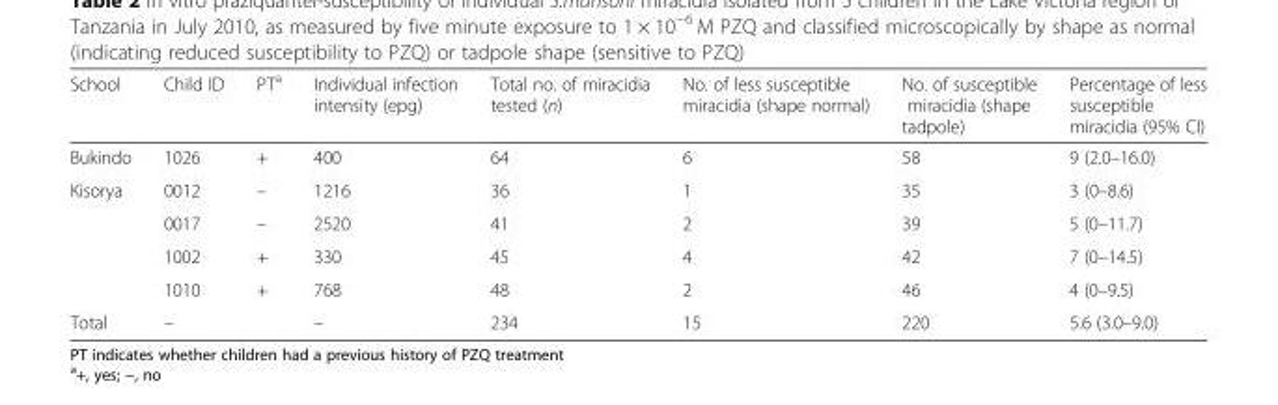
<table><thead><tr><td>School</td><td>Child ID</td><td>PT<sup>a</sup></td><td>Individual infection intensity (epg)</td><td>Total no. of miracidia tested (n)</td><td>No. of less susceptible miracidia (shape normal)</td><td>No. of susceptible miracidia (shape tadpole)</td><td>Percentage of less susceptible miracidia (95% CI)</td></tr></thead><tbody><tr><td>Bukindo</td><td>1026</td><td>+</td><td>400</td><td>64</td><td>6</td><td>58</td><td>9 (2.0–16.0)</td></tr><tr><td rowspan="4">Kisorya</td><td>0012</td><td>–</td><td>1216</td><td>36</td><td>1</td><td>35</td><td>3 (0–8.6)</td></tr><tr><td>0017</td><td>–</td><td>2520</td><td>41</td><td>2</td><td>39</td><td>5 (0–11.7)</td></tr><tr><td>1002</td><td>+</td><td>330</td><td>45</td><td>4</td><td>42</td><td>7 (0–14.5)</td></tr><tr><td>1010</td><td>+</td><td>768</td><td>48</td><td>2</td><td>46</td><td>4 (0–9.5)</td></tr><tr><td>Total</td><td>–</td><td></td><td>–</td><td>234</td><td>15</td><td>220</td><td>5.6 (3.0–9.0)</td></tr></tbody></table>